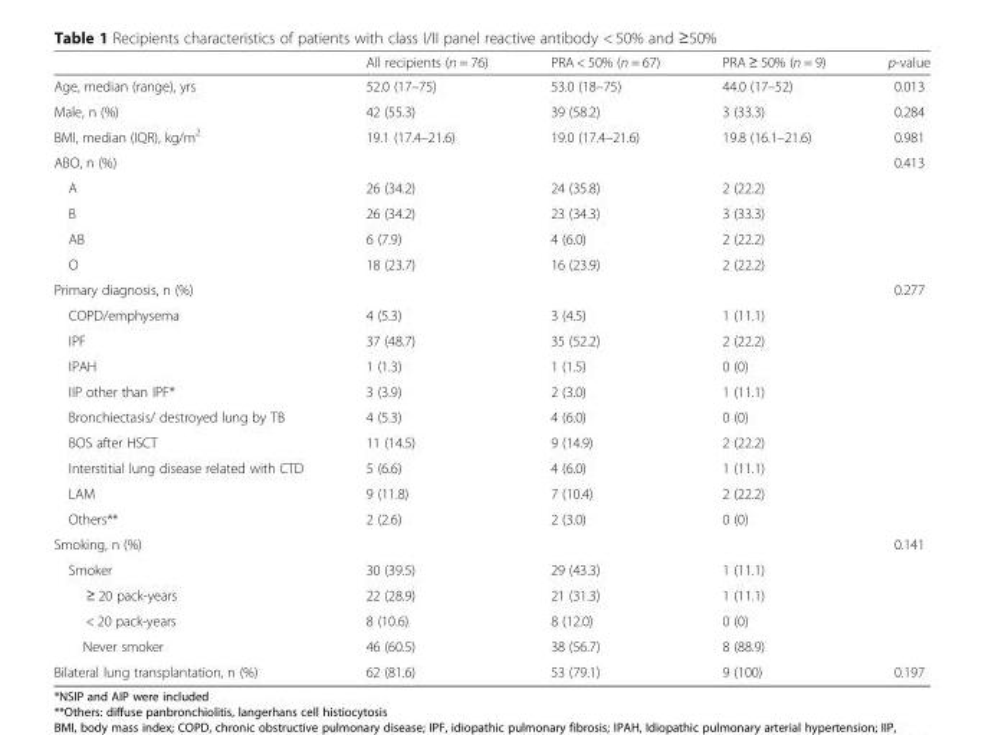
<table><thead><tr><td></td><td>All recipients (n = 76)</td><td>PRA &lt; 50% (n = 67)</td><td>PRA ≥ 50% (n = 9)</td><td>p-value</td></tr></thead><tbody><tr><td>Age, median (range), yrs</td><td>52.0 (17–75)</td><td>53.0 (18–75)</td><td>44.0 (17–52)</td><td>0.013</td></tr><tr><td>Male, n (%)</td><td>42 (55.3)</td><td>39 (58.2)</td><td>3 (33.3)</td><td>0.284</td></tr><tr><td>BMI, median (IQR), kg/m<sup>2</sup></td><td>19.1 (17.4–21.6)</td><td>19.0 (17.4–21.6)</td><td>19.8 (16.1–21.6)</td><td>0.981</td></tr><tr><td>ABO, n (%)</td><td></td><td></td><td></td><td>0.413</td></tr><tr><td>A</td><td>26 (34.2)</td><td>24 (35.8)</td><td>2 (22.2)</td><td></td></tr><tr><td>B</td><td>26 (34.2)</td><td>23 (34.3)</td><td>3 (33.3)</td><td></td></tr><tr><td>AB</td><td>6 (7.9)</td><td>4 (6.0)</td><td>2 (22.2)</td><td></td></tr><tr><td>O</td><td>18 (23.7)</td><td>16 (23.9)</td><td>2 (22.2)</td><td></td></tr><tr><td>Primary diagnosis, n (%)</td><td></td><td></td><td></td><td>0.277</td></tr><tr><td>COPD/emphysema</td><td>4 (5.3)</td><td>3 (4.5)</td><td>1 (11.1)</td><td></td></tr><tr><td>IPF</td><td>37 (48.7)</td><td>35 (52.2)</td><td>2 (22.2)</td><td></td></tr><tr><td>IPAH</td><td>1 (1.3)</td><td>1 (1.5)</td><td>0 (0)</td><td></td></tr><tr><td>IIP other than IPF*</td><td>3 (3.9)</td><td>2 (3.0)</td><td>1 (11.1)</td><td></td></tr><tr><td>Bronchiectasis/ destroyed lung by TB</td><td>4 (5.3)</td><td>4 (6.0)</td><td>0 (0)</td><td></td></tr><tr><td>BOS after HSCT</td><td>11 (14.5)</td><td>9 (14.9)</td><td>2 (22.2)</td><td></td></tr><tr><td>Interstitial lung disease related with CTD</td><td>5 (6.6)</td><td>4 (6.0)</td><td>1 (11.1)</td><td></td></tr><tr><td>LAM</td><td>9 (11.8)</td><td>7 (10.4)</td><td>2 (22.2)</td><td></td></tr><tr><td>Others**</td><td>2 (2.6)</td><td>2 (3.0)</td><td>0 (0)</td><td></td></tr><tr><td>Smoking, n (%)</td><td></td><td></td><td></td><td>0.141</td></tr><tr><td>Smoker</td><td>30 (39.5)</td><td>29 (43.3)</td><td>1 (11.1)</td><td></td></tr><tr><td>≥ 20 pack-years</td><td>22 (28.9)</td><td>21 (31.3)</td><td>1 (11.1)</td><td></td></tr><tr><td>&lt; 20 pack-years</td><td>8 (10.6)</td><td>8 (12.0)</td><td>0 (0)</td><td></td></tr><tr><td>Never smoker</td><td>46 (60.5)</td><td>38 (56.7)</td><td>8 (88.9)</td><td></td></tr><tr><td>Bilateral lung transplantation, n (%)</td><td>62 (81.6)</td><td>53 (79.1)</td><td>9 (100)</td><td>0.197</td></tr></tbody></table>